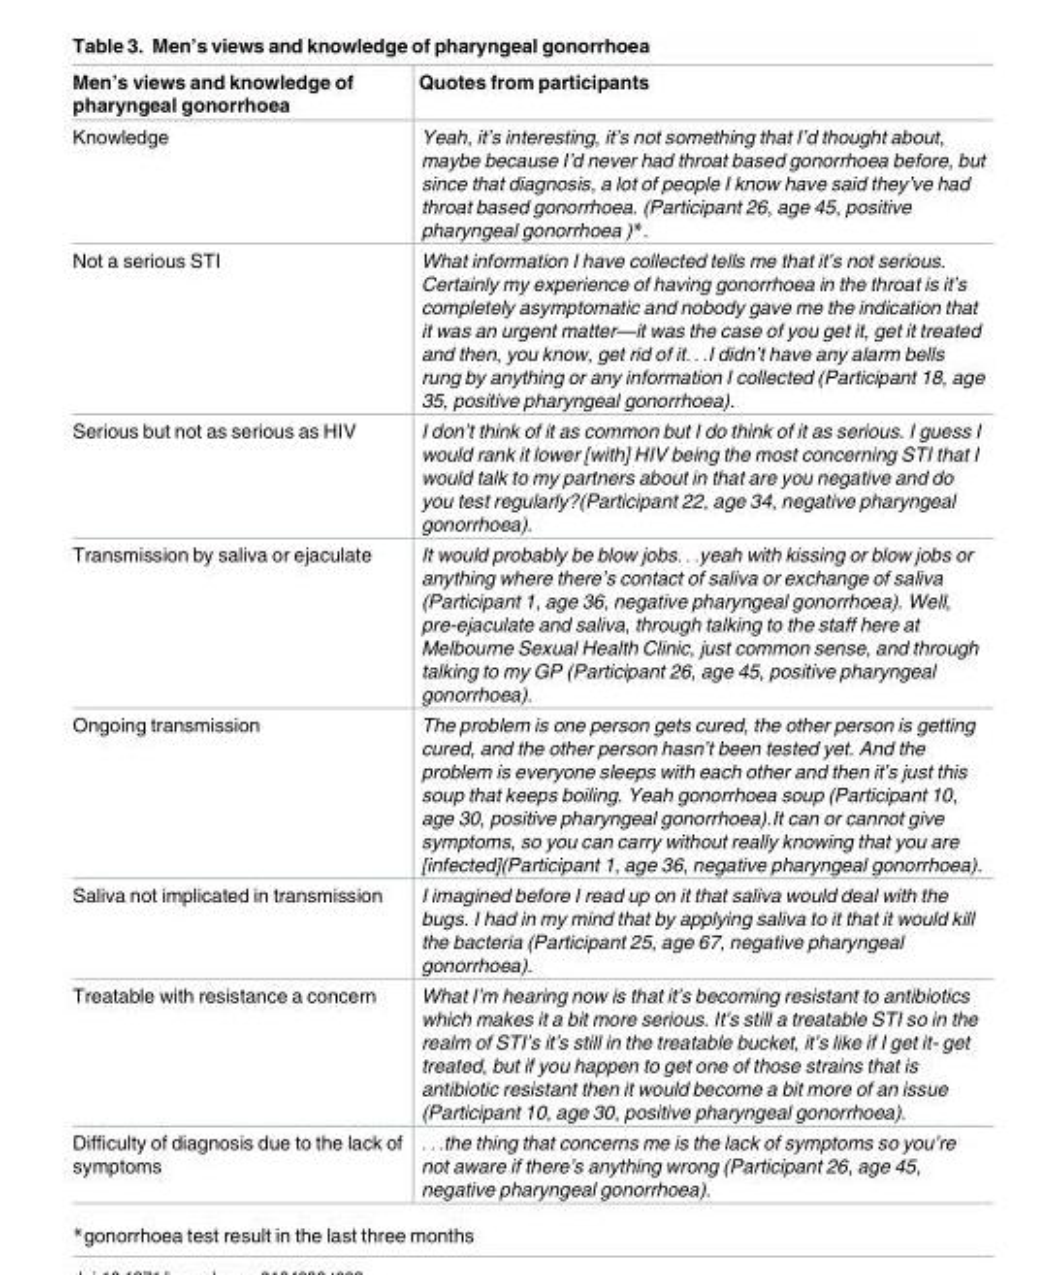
<table><thead><tr><td>Men’s views and knowledge of pharyngeal gonorrhoea</td><td>Quotes from participants</td></tr></thead><tbody><tr><td>Knowledge</td><td>Yeah, it’s interesting, it’s not something that I’d thought about, maybe because I’d never had throat based gonorrhoea before, but since that diagnosis, a lot of people I know have said they’ve had throat based gonorrhoea. (Participant 26, age 45, positive pharyngeal gonorrhoea )*.</td></tr><tr><td>Not a serious STI</td><td>What information I have collected tells me that it’s not serious. Certainly my experience of having gonorrhoea in the throat is it’s completely asymptomatic and nobody gave me the indication that it was an urgent matter—it was the case of you get it, get it treated and then, you know, get rid of it. . .I didn’t have any alarm bells rung by anything or any information I collected (Participant 18, age 35, positive pharyngeal gonorrhoea).</td></tr><tr><td>Serious but not as serious as HIV</td><td>I don’t think of it as common but I do think of it as serious. I guess I would rank it lower [with] HIV being the most concerning STI that I would talk to my partners about in that are you negative and do you test regularly?(Participant 22, age 34, negative pharyngeal gonorrhoea).</td></tr><tr><td>Transmission by saliva or ejaculate</td><td>It would probably be blow jobs. . .yeah with kissing or blow jobs or anything where there’s contact of saliva or exchange of saliva (Participant 1, age 36, negative pharyngeal gonorrhoea). Well, pre-ejaculate and saliva, through talking to the staff here at Melbourne Sexual Health Clinic, just common sense, and through talking to my GP (Participant 26, age 45, positive pharyngeal gonorrhoea).</td></tr><tr><td>Ongoing transmission</td><td>The problem is one person gets cured, the other person is getting cured, and the other person hasn’t been tested yet. And the problem is everyone sleeps with each other and then it’s just this soup that keeps boiling. Yeah gonorrhoea soup (Participant 10, age 30, positive pharyngeal gonorrhoea).It can or cannot give symptoms, so you can carry without really knowing that you are [infected](Participant 1, age 36, negative pharyngeal gonorrhoea).</td></tr><tr><td>Saliva not implicated in transmission</td><td>I imagined before I read up on it that saliva would deal with the bugs. I had in my mind that by applying saliva to it that it would kill the bacteria (Participant 25, age 67, negative pharyngeal gonorrhoea).</td></tr><tr><td>Treatable with resistance a concern</td><td>What I’m hearing now is that it’s becoming resistant to antibiotics which makes it a bit more serious. It’s still a treatable STI so in the realm of STI’s it’s still in the treatable bucket, it’s like if I get it- get treated, but if you happen to get one of those strains that is antibiotic resistant then it would become a bit more of an issue (Participant 10, age 30, positive pharyngeal gonorrhoea).</td></tr><tr><td>Difficulty of diagnosis due to the lack of symptoms</td><td>. . .the thing that concerns me is the lack of symptoms so you’re not aware if there’s anything wrong (Participant 26, age 45, negative pharyngeal gonorrhoea).</td></tr></tbody></table>